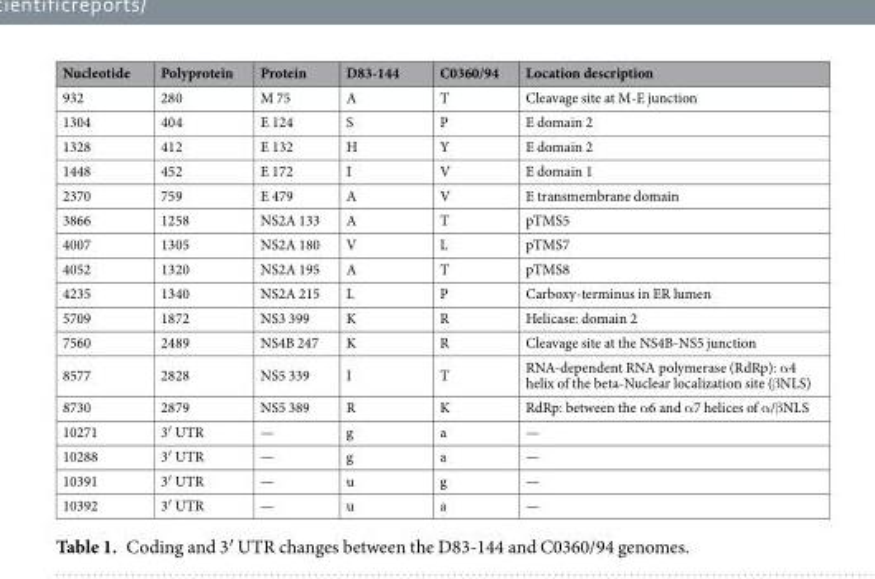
<table><thead><tr><td>Nucleotide</td><td>Polyprotein</td><td>Protein</td><td>D83-144</td><td>C0360/94</td><td>Location description</td></tr></thead><tbody><tr><td>932</td><td>280</td><td>M 75</td><td>A</td><td>T</td><td>Cleavage site at M-E junction</td></tr><tr><td>1304</td><td>404</td><td>E 124</td><td>S</td><td>P</td><td>E domain 2</td></tr><tr><td>1328</td><td>412</td><td>E 132</td><td>H</td><td>Y</td><td>E domain 2</td></tr><tr><td>1448</td><td>452</td><td>E 172</td><td>I</td><td>V</td><td>E domain 1</td></tr><tr><td>2370</td><td>759</td><td>E 479</td><td>A</td><td>V</td><td>E transmembrane domain</td></tr><tr><td>3866</td><td>1258</td><td>NS2A 133</td><td>A</td><td>T</td><td>pTMS5</td></tr><tr><td>4007</td><td>1305</td><td>NS2A 180</td><td>V</td><td>L</td><td>pTMS7</td></tr><tr><td>4052</td><td>1320</td><td>NS2A 195</td><td>A</td><td>T</td><td>pTMS8</td></tr><tr><td>4235</td><td>1340</td><td>NS2A 215</td><td>L</td><td>P</td><td>Carboxy-terminus in ER lumen</td></tr><tr><td>5709</td><td>1872</td><td>NS3 399</td><td>K</td><td>R</td><td>Helicase: domain 2</td></tr><tr><td>7560</td><td>2489</td><td>NS4B 247</td><td>K</td><td>R</td><td>Cleavage site at the NS4B-NS5 junction</td></tr><tr><td>8577</td><td>2828</td><td>NS5 339</td><td>I</td><td>T</td><td>RNA-dependent RNA polymerase (RdRp): α4 helix of the beta-Nuclear localization site (βNLS)</td></tr><tr><td>8730</td><td>2879</td><td>NS5 389</td><td>R</td><td>K</td><td>RdRp: between the α6 and α7 helices of α/βNLS</td></tr><tr><td>10271</td><td>3′ UTR</td><td>—</td><td>g</td><td>a</td><td>—</td></tr><tr><td>10288</td><td>3′ UTR</td><td>—</td><td>g</td><td>a</td><td>—</td></tr><tr><td>10391</td><td>3′ UTR</td><td>—</td><td>u</td><td>g</td><td>—</td></tr><tr><td>10392</td><td>3′ UTR</td><td>—</td><td>u</td><td>a</td><td>—</td></tr></tbody></table>